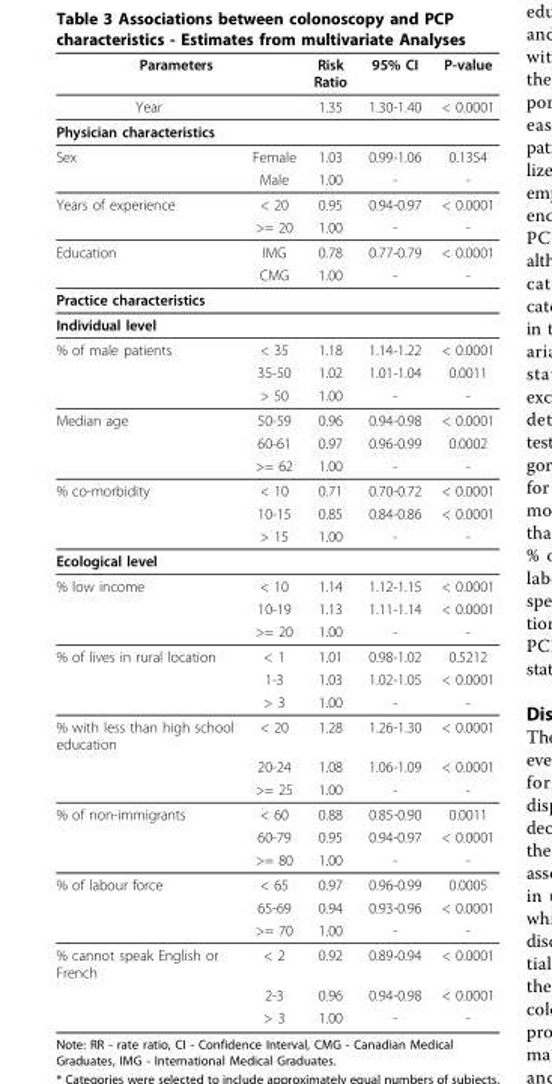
<table><thead><tr><td colspan="2">Parameters</td><td rowspan="2">Risk Ratio 1.35</td><td rowspan="2">95% CI 1.30-1.40</td><td rowspan="2">P-value &lt; 0.0001</td></tr><tr><td>Year</td><td></td></tr></thead><tbody><tr><td colspan="5">Physician characteristics</td></tr><tr><td rowspan="2">Sex</td><td>Female</td><td>1.03</td><td>0.99-1.06</td><td>0.1354</td></tr><tr><td>Male</td><td>1.00</td><td>-</td><td>-</td></tr><tr><td rowspan="2">Years of experience</td><td>&lt; 20</td><td>0.95</td><td>0.94-0.97</td><td>&lt; 0.0001</td></tr><tr><td>&gt;= 20</td><td>1.00</td><td>-</td><td>-</td></tr><tr><td rowspan="2">Education</td><td>IMG</td><td>0.78</td><td>0.77-0.79</td><td>&lt; 0.0001</td></tr><tr><td>CMG</td><td>1.00</td><td>-</td><td>-</td></tr><tr><td colspan="5">Practice characteristics</td></tr><tr><td colspan="5">Individual level</td></tr><tr><td rowspan="3">% of male patients</td><td>&lt; 35</td><td>1.18</td><td>1.14-1.22</td><td>&lt; 0.0001</td></tr><tr><td>35-50</td><td>1.02</td><td>1.01-1.04</td><td>0.0011</td></tr><tr><td>&gt; 50</td><td>1.00</td><td>-</td><td>-</td></tr><tr><td rowspan="3">Median age</td><td>50-59</td><td>0.96</td><td>0.94-0.98</td><td>&lt; 0.0001</td></tr><tr><td>60-61</td><td>0.97</td><td>0.96-0.99</td><td>0.0002</td></tr><tr><td>&gt;= 62</td><td>1.00</td><td>-</td><td>-</td></tr><tr><td rowspan="3">% co-morbidity</td><td>&lt; 10</td><td>0.71</td><td>0.70-0.72</td><td>&lt; 0.0001</td></tr><tr><td>10-15</td><td>0.85</td><td>0.84-0.86</td><td>&lt; 0.0001</td></tr><tr><td>&gt; 15</td><td>1.00</td><td>-</td><td>-</td></tr><tr><td colspan="5">Ecological level</td></tr><tr><td rowspan="3">% low income</td><td>&lt; 10</td><td>1.14</td><td>1.12-1.15</td><td>&lt; 0.0001</td></tr><tr><td>10-19</td><td>1.13</td><td>1.11-1.14</td><td>&lt; 0.0001</td></tr><tr><td>&gt;= 20</td><td>1.00</td><td>-</td><td>-</td></tr><tr><td rowspan="3">% of lives in rural location</td><td>&lt; 1</td><td>1.01</td><td>0.98-1.02</td><td>0.5212</td></tr><tr><td>1-3</td><td>1.03</td><td>1.02-1.05</td><td>&lt; 0.0001</td></tr><tr><td>&gt; 3</td><td>1.00</td><td>-</td><td>-</td></tr><tr><td rowspan="3">% with less than high school education</td><td>&lt; 20</td><td>1.28</td><td>1.26-1.30</td><td>&lt; 0.0001</td></tr><tr><td>20-24</td><td>1.08</td><td>1.06-1.09</td><td>&lt; 0.0001</td></tr><tr><td>&gt;= 25</td><td>1.00</td><td>-</td><td>-</td></tr><tr><td rowspan="3">% of non-immigrants</td><td>&lt; 60</td><td>0.88</td><td>0.85-0.90</td><td>0.0011</td></tr><tr><td>60-79</td><td>0.95</td><td>0.94-0.97</td><td>&lt; 0.0001</td></tr><tr><td>&gt;= 80</td><td>1.00</td><td>-</td><td>-</td></tr><tr><td rowspan="3">% of labour force</td><td>&lt; 65</td><td>0.97</td><td>0.96-0.99</td><td>0.0005</td></tr><tr><td>65-69</td><td>0.94</td><td>0.93-0.96</td><td>&lt; 0.0001</td></tr><tr><td>&gt;= 70</td><td>1.00</td><td>-</td><td>-</td></tr><tr><td rowspan="3">% cannot speak English or French</td><td>&lt; 2</td><td>0.92</td><td>0.89-0.94</td><td>&lt; 0.0001</td></tr><tr><td>2-3</td><td>0.96</td><td>0.94-0.98</td><td>&lt; 0.0001</td></tr><tr><td>&gt; 3</td><td>1.00</td><td>-</td><td>-</td></tr></tbody></table>